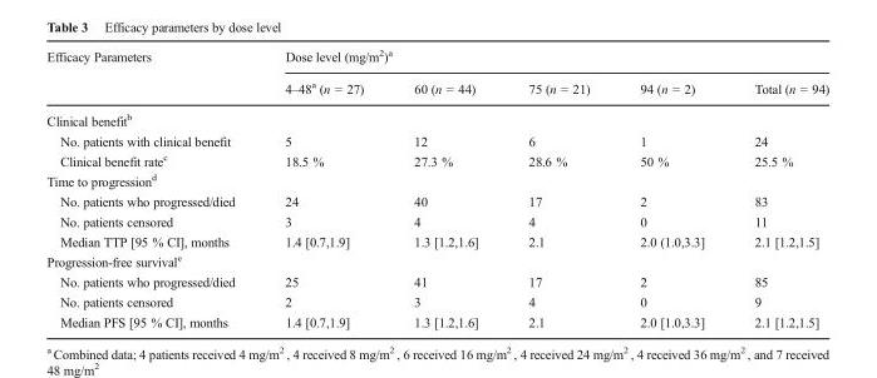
<table><thead><tr><td rowspan="2">Efficacy Parameters</td><td colspan="5">Dose level (mg/m<sup>2</sup>)<sup>a</sup></td></tr><tr><td>4–48<sup>a</sup> (n = 27)</td><td>60 (n = 44)</td><td>75 (n = 21)</td><td>94 (n = 2)</td><td>Total (n = 94)</td></tr></thead><tbody><tr><td colspan="6">Clinical benefit<sup>b</sup></td></tr><tr><td>No. patients with clinical benefit</td><td>5</td><td>12</td><td>6</td><td>1</td><td>24</td></tr><tr><td>Clinical benefit rate<sup>c</sup></td><td>18.5 %</td><td>27.3 %</td><td>28.6 %</td><td>50 %</td><td>25.5 %</td></tr><tr><td colspan="6">Time to progression<sup>d</sup></td></tr><tr><td>No. patients who progressed/died</td><td>24</td><td>40</td><td>17</td><td>2</td><td>83</td></tr><tr><td>No. patients censored</td><td>3</td><td>4</td><td>4</td><td>0</td><td>11</td></tr><tr><td>Median TTP [95 % CI], months</td><td>1.4 [0.7,1.9]</td><td>1.3 [1.2,1.6]</td><td>2.1</td><td>2.0 (1.0,3.3]</td><td>2.1 [1.2,1.5]</td></tr><tr><td colspan="6">Progression-free survival<sup>e</sup></td></tr><tr><td>No. patients who progressed/died</td><td>25</td><td>41</td><td>17</td><td>2</td><td>85</td></tr><tr><td>No. patients censored</td><td>2</td><td>3</td><td>4</td><td>0</td><td>9</td></tr><tr><td>Median PFS [95 % CI], months</td><td>1.4 [0.7,1.9]</td><td>1.3 [1.2,1.6]</td><td>2.1</td><td>2.0 [1.0,3.3]</td><td>2.1 [1.2,1.5]</td></tr></tbody></table>